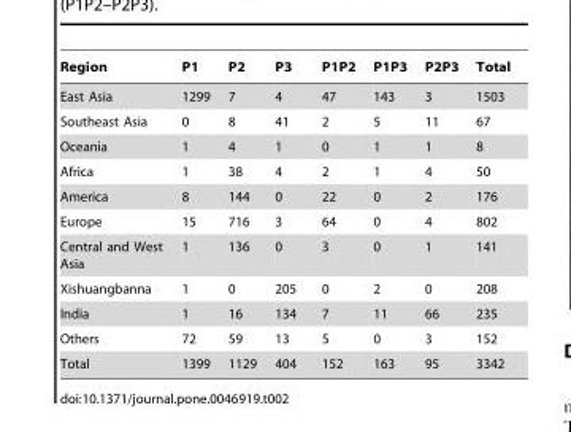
<table><thead><tr><td>Region</td><td>P1</td><td>P2</td><td>P3</td><td>P1P2</td><td>P1P3</td><td>P2P3</td><td>Total</td></tr></thead><tbody><tr><td>East Asia</td><td>1299</td><td>7</td><td>4</td><td>47</td><td>143</td><td>3</td><td>1503</td></tr><tr><td>Southeast Asia</td><td>0</td><td>8</td><td>41</td><td>2</td><td>5</td><td>11</td><td>67</td></tr><tr><td>Oceania</td><td>1</td><td>4</td><td>1</td><td>0</td><td>1</td><td>1</td><td>8</td></tr><tr><td>Africa</td><td>1</td><td>38</td><td>4</td><td>2</td><td>1</td><td>4</td><td>50</td></tr><tr><td>America</td><td>8</td><td>144</td><td>0</td><td>22</td><td>0</td><td>2</td><td>176</td></tr><tr><td>Europe</td><td>15</td><td>716</td><td>3</td><td>64</td><td>0</td><td>4</td><td>802</td></tr><tr><td>Central and West Asia</td><td>1</td><td>136</td><td>0</td><td>3</td><td>0</td><td>1</td><td>141</td></tr><tr><td>Xishuangbanna</td><td>1</td><td>0</td><td>205</td><td>0</td><td>2</td><td>0</td><td>208</td></tr><tr><td>India</td><td>1</td><td>16</td><td>134</td><td>7</td><td>11</td><td>66</td><td>235</td></tr><tr><td>Others</td><td>72</td><td>59</td><td>13</td><td>5</td><td>0</td><td>3</td><td>152</td></tr><tr><td>Total</td><td>1399</td><td>1129</td><td>404</td><td>152</td><td>163</td><td>95</td><td>3342</td></tr></tbody></table>